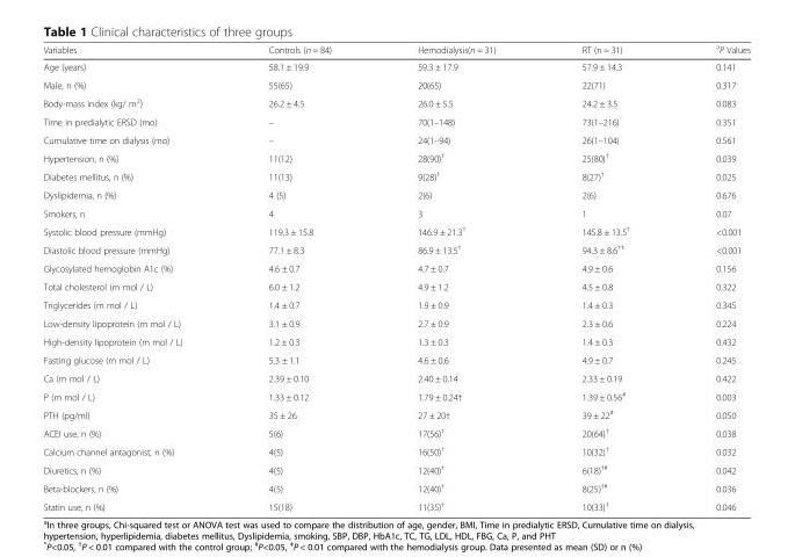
<table><thead><tr><td>Variables</td><td>Controls (n = 84)</td><td>Hemodialysis(n = 31)</td><td>RT (n = 31)</td><td><sup>a</sup>P Values</td></tr></thead><tbody><tr><td>Age (years)</td><td>58.1 ± 19.9</td><td>59.3 ± 17.9</td><td>57.9 ± 14.3</td><td>0.141</td></tr><tr><td>Male, n (%)</td><td>55(65)</td><td>20(65)</td><td>22(71)</td><td>0.317</td></tr><tr><td>Body-mass index (kg/ m<sup>2</sup>)</td><td>26.2 ± 4.5</td><td>26.0 ± 5.5</td><td>24.2 ± 3.5</td><td>0.083</td></tr><tr><td>Time in predialytic ERSD (mo)</td><td>–</td><td>70(1–148)</td><td>73(1–216)</td><td>0.351</td></tr><tr><td>Cumulative time on dialysis (mo)</td><td>–</td><td>24(1–94)</td><td>26(1–104)</td><td>0.561</td></tr><tr><td>Hypertension, n (%)</td><td>11(12)</td><td>28(90)<sup>†</sup></td><td>25(80)<sup>†</sup></td><td>0.039</td></tr><tr><td>Diabetes mellitus, n (%)</td><td>11(13)</td><td>9(28)<sup>†</sup></td><td>8(27)<sup>†</sup></td><td>0.025</td></tr><tr><td>Dyslipidemia, n (%)</td><td>4 (5)</td><td>2(6)</td><td>2(6)</td><td>0.676</td></tr><tr><td>Smokers, n</td><td>4</td><td>3</td><td>1</td><td>0.07</td></tr><tr><td>Systolic blood pressure (mmHg)</td><td>119.3 ± 15.8</td><td>146.9 ± 21.3<sup>†</sup></td><td>145.8 ± 13.5<sup>†</sup></td><td>&lt;0.001</td></tr><tr><td>Diastolic blood pressure (mmHg)</td><td>77.1 ± 8.3</td><td>86.9 ± 13.5<sup>†</sup></td><td>94.3 ± 8.6<sup>†‡</sup></td><td>&lt;0.001</td></tr><tr><td>Glycosylated hemoglobin A1c (%)</td><td>4.6 ± 0.7</td><td>4.7 ± 0.7</td><td>4.9 ± 0.6</td><td>0.156</td></tr><tr><td>Total cholesterol (m mol / L)</td><td>6.0 ± 1.2</td><td>4.9 ± 1.2</td><td>4.5 ± 0.8</td><td>0.322</td></tr><tr><td>Triglycerides (m mol / L)</td><td>1.4 ± 0.7</td><td>1.9 ± 0.9</td><td>1.4 ± 0.3</td><td>0.345</td></tr><tr><td>Low-density lipoprotein (m mol / L)</td><td>3.1 ± 0.9</td><td>2.7 ± 0.9</td><td>2.3 ± 0.6</td><td>0.224</td></tr><tr><td>High-density lipoprotein (m mol / L)</td><td>1.2 ± 0.3</td><td>1.3 ± 0.3</td><td>1.4 ± 0.3</td><td>0.432</td></tr><tr><td>Fasting glucose (m mol / L)</td><td>5.3 ± 1.1</td><td>4.6 ± 0.6</td><td>4.9 ± 0.7</td><td>0.245</td></tr><tr><td>Ca (m mol / L)</td><td>2.39 ± 0.10</td><td>2.40 ± 0.14</td><td>2.33 ± 0.19</td><td>0.422</td></tr><tr><td>P (m mol / L)</td><td>1.33 ± 0.12</td><td>1.79 ± 0.24†</td><td>1.39 ± 0.56<sup>#</sup></td><td>0.003</td></tr><tr><td>PTH (pg/ml)</td><td>35 ± 26</td><td>27 ± 20†</td><td>39 ± 22<sup>#</sup></td><td>0.050</td></tr><tr><td>ACEI use, n (%)</td><td>5(6)</td><td>17(56)<sup>†</sup></td><td>20(64)<sup>†</sup></td><td>0.038</td></tr><tr><td>Calcium channel antagonist, n (%)</td><td>4(5)</td><td>16(50)<sup>†</sup></td><td>10(32)<sup>†</sup></td><td>0.032</td></tr><tr><td>Diuretics, n (%)</td><td>4(5)</td><td>12(40)<sup>†</sup></td><td>6(18)<sup>†#</sup></td><td>0.042</td></tr><tr><td>Beta-blockers, n (%)</td><td>4(5)</td><td>12(40)<sup>†</sup></td><td>8(25)<sup>†#</sup></td><td>0.036</td></tr><tr><td>Statin use, n (%)</td><td>15(18)</td><td>11(35)<sup>†</sup></td><td>10(33)<sup>†</sup></td><td>0.046</td></tr></tbody></table>